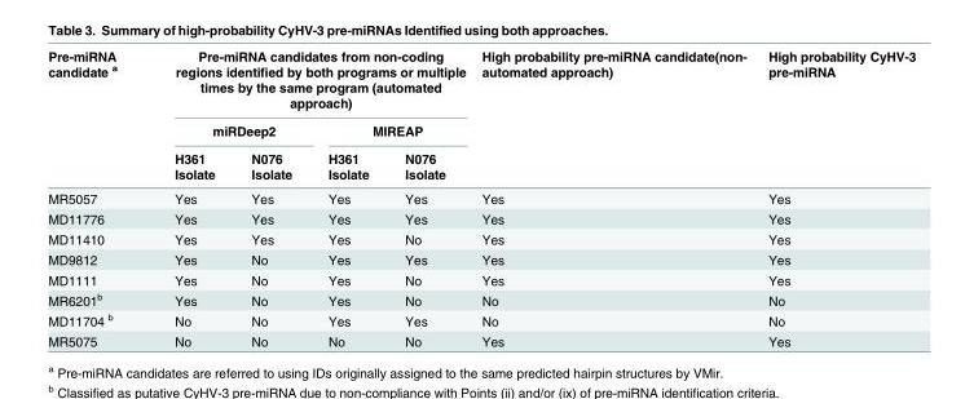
<table><thead><tr><td rowspan="3">Pre-miRNA candidate <sup>a</sup></td><td colspan="4">Pre-miRNA candidates from non-coding regions identified by both programs or multiple times by the same program (automated approach)</td><td rowspan="3">High probability pre-miRNA candidate(non- automated approach)</td><td rowspan="3">High probability CyHV-3 pre-miRNA</td></tr><tr><td colspan="2">miRDeep2</td><td colspan="2">MIREAP</td></tr><tr><td>H361 Isolate</td><td>N076 Isolate</td><td>H361 Isolate</td><td>N076 Isolate</td></tr></thead><tbody><tr><td>MR5057</td><td>Yes</td><td>Yes</td><td>Yes</td><td>Yes</td><td>Yes</td><td>Yes</td></tr><tr><td>MD11776</td><td>Yes</td><td>Yes</td><td>Yes</td><td>Yes</td><td>Yes</td><td>Yes</td></tr><tr><td>MD11410</td><td>Yes</td><td>Yes</td><td>Yes</td><td>No</td><td>Yes</td><td>Yes</td></tr><tr><td>MD9812</td><td>Yes</td><td>No</td><td>Yes</td><td>Yes</td><td>Yes</td><td>Yes</td></tr><tr><td>MD1111</td><td>Yes</td><td>No</td><td>Yes</td><td>No</td><td>Yes</td><td>Yes</td></tr><tr><td>MR6201<sup>b</sup></td><td>Yes</td><td>No</td><td>Yes</td><td>No</td><td>No</td><td>No</td></tr><tr><td>MD11704 <sup>b</sup></td><td>No</td><td>No</td><td>Yes</td><td>Yes</td><td>No</td><td>No</td></tr><tr><td>MR5075</td><td>No</td><td>No</td><td>No</td><td>No</td><td>Yes</td><td>Yes</td></tr></tbody></table>